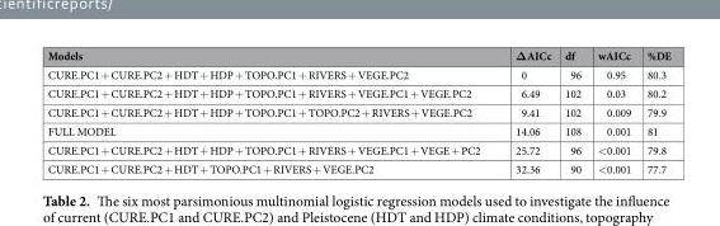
<table><thead><tr><td>Models</td><td>ΔAICc</td><td>df</td><td>wAICc</td><td>%DE</td></tr></thead><tbody><tr><td>CURE.PC1 + CURE.PC2 + HDT + HDP + TOPO.PC1 + RIVERS + VEGE.PC2</td><td>0</td><td>96</td><td>0.95</td><td>80.3</td></tr><tr><td>CURE.PC1 + CURE.PC2 + HDT + HDP + TOPO.PC1 + RIVERS + VEGE.PC1 + VEGE.PC2</td><td>6.49</td><td>102</td><td>0.03</td><td>80.2</td></tr><tr><td>CURE.PC1 + CURE.PC2 + HDT + HDP + TOPO.PC1 + TOPO.PC2 + RIVERS + VEGE.PC2</td><td>9.41</td><td>102</td><td>0.009</td><td>79.9</td></tr><tr><td>FULL MODEL</td><td>14.06</td><td>108</td><td>0.001</td><td>81</td></tr><tr><td>CURE.PC1 + CURE.PC2 + HDT + HDP + TOPO.PC1 + RIVERS + VEGE.PC1 + VEGE + PC2</td><td>25.72</td><td>96</td><td>&lt;0.001</td><td>79.8</td></tr><tr><td>CURE.PC1 + CURE.PC2 + HDT + TOPO.PC1 + RIVERS + VEGE.PC2</td><td>32.36</td><td>90</td><td>&lt;0.001</td><td>77.7</td></tr></tbody></table>